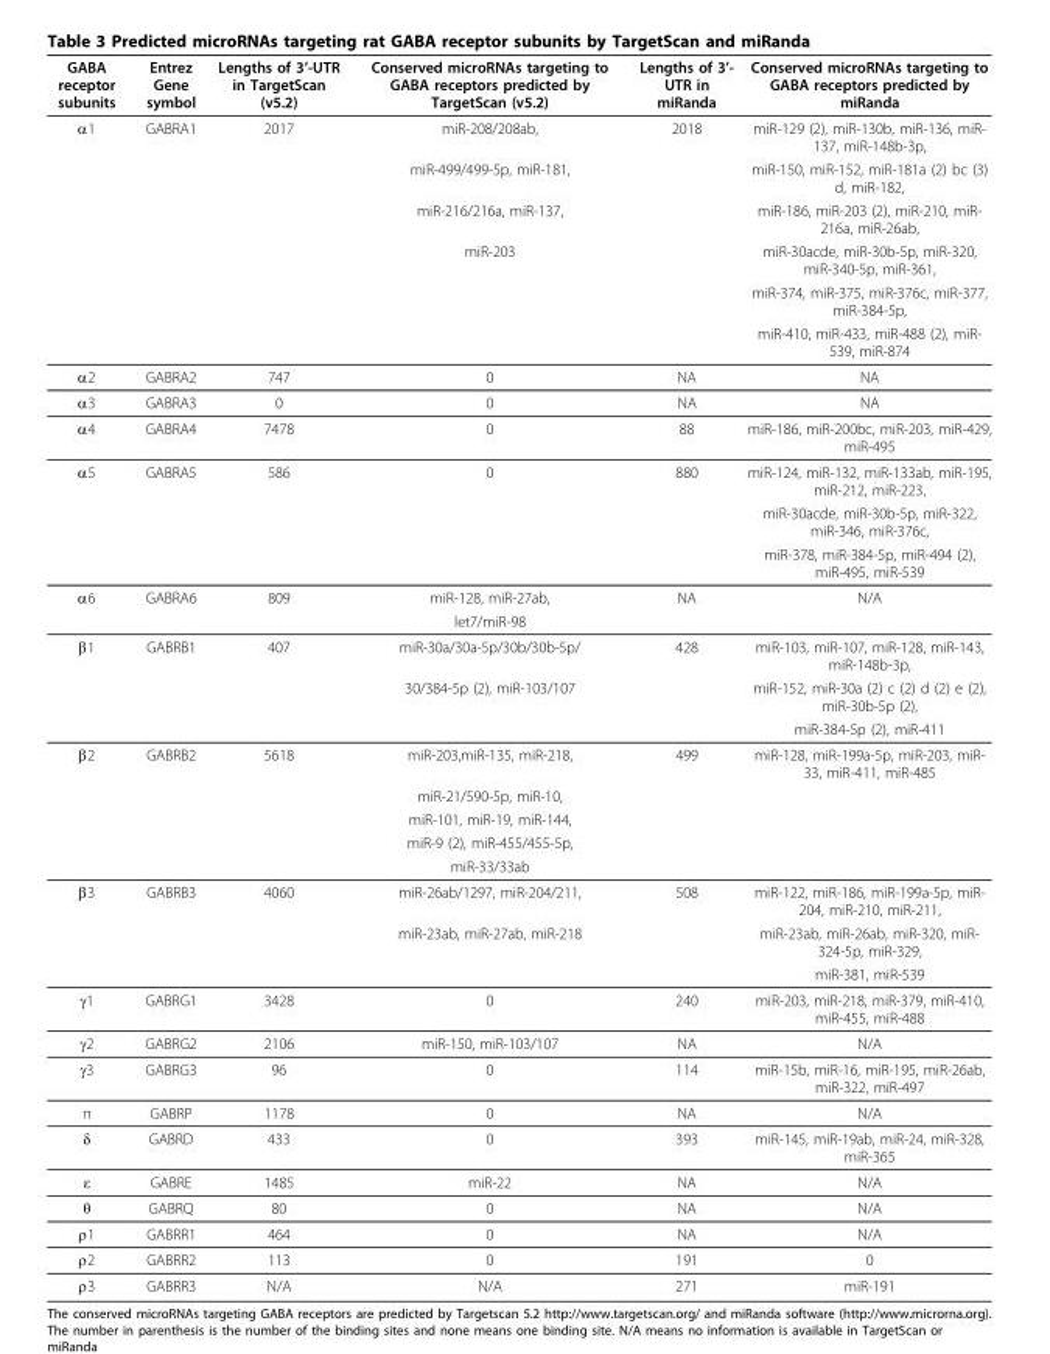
<table><thead><tr><td>GABA receptor subunits</td><td>Entrez Gene symbol</td><td>Lengths of 3’-UTR in TargetScan (v5.2)</td><td>Conserved microRNAs targeting to GABA receptors predicted by TargetScan (v5.2)</td><td>Lengths of 3’- UTR in miRanda</td><td>Conserved microRNAs targeting to GABA receptors predicted by miRanda</td></tr></thead><tbody><tr><td rowspan="6">α1</td><td>GABRA1</td><td>2017</td><td>miR-208/208ab,</td><td>2018</td><td>miR-129 (2), miR-130b, miR-136, miR- 137, miR-148b-3p,</td></tr><tr><td></td><td></td><td>miR-499/499-5p, miR-181,</td><td></td><td>miR-150, miR-152, miR-181a (2) bc (3) d, miR-182,</td></tr><tr><td></td><td></td><td>miR-216/216a, miR-137,</td><td></td><td>miR-186, miR-203 (2), miR-210, miR- 216a, miR-26ab,</td></tr><tr><td></td><td></td><td>miR-203</td><td></td><td>miR-30acde, miR-30b-5p, miR-320, miR-340-5p, miR-361,</td></tr><tr><td></td><td></td><td></td><td></td><td>miR-374, miR-375, miR-376c, miR-377, miR-384-5p,</td></tr><tr><td></td><td></td><td></td><td></td><td>miR-410, miR-433, miR-488 (2), miR- 539, miR-874</td></tr><tr><td>α2</td><td>GABRA2</td><td>747</td><td>0</td><td>NA</td><td>NA</td></tr><tr><td>α3</td><td>GABRA3</td><td>0</td><td>0</td><td>NA</td><td>NA</td></tr><tr><td>α4</td><td>GABRA4</td><td>7478</td><td>0</td><td>88</td><td>miR-186, miR-200bc, miR-203, miR-429, miR-495</td></tr><tr><td rowspan="3">α5</td><td>GABRA5</td><td>586</td><td>0</td><td>880</td><td>miR-124, miR-132, miR-133ab, miR-195, miR-212, miR-223,</td></tr><tr><td></td><td></td><td></td><td></td><td>miR-30acde, miR-30b-5p, miR-322, miR-346, miR-376c,</td></tr><tr><td></td><td></td><td></td><td></td><td>miR-378, miR-384-5p, miR-494 (2), miR-495, miR-539</td></tr><tr><td rowspan="2">α6</td><td>GABRA6</td><td>809</td><td>miR-128, miR-27ab,</td><td>NA</td><td>N/A</td></tr><tr><td></td><td></td><td>let7/miR-98</td><td></td><td></td></tr><tr><td rowspan="3">β1</td><td>GABRB1</td><td>407</td><td>miR-30a/30a-5p/30b/30b-5p/</td><td>428</td><td>miR-103, miR-107, miR-128, miR-143, miR-148b-3p,</td></tr><tr><td></td><td></td><td>30/384-5p (2), miR-103/107</td><td></td><td>miR-152, miR-30a (2) c (2) d (2) e (2), miR-30b-5p (2),</td></tr><tr><td></td><td></td><td></td><td></td><td>miR-384-5p (2), miR-411</td></tr><tr><td rowspan="5">β2</td><td>GABRB2</td><td>5618</td><td>miR-203,miR-135, miR-218,</td><td>499</td><td>miR-128, miR-199a-5p, miR-203, miR- 33, miR-411, miR-485</td></tr><tr><td></td><td></td><td>miR-21/590-5p, miR-10,</td><td></td><td></td></tr><tr><td></td><td></td><td>miR-101, miR-19, miR-144,</td><td></td><td></td></tr><tr><td></td><td></td><td>miR-9 (2), miR-455/455-5p,</td><td></td><td></td></tr><tr><td></td><td></td><td>miR-33/33ab</td><td></td><td></td></tr><tr><td rowspan="3">β3</td><td>GABRB3</td><td>4060</td><td>miR-26ab/1297, miR-204/211,</td><td>508</td><td>miR-122, miR-186, miR-199a-5p, miR- 204, miR-210, miR-211,</td></tr><tr><td></td><td></td><td>miR-23ab, miR-27ab, miR-218</td><td></td><td>miR-23ab, miR-26ab, miR-320, miR- 324-5p, miR-329,</td></tr><tr><td></td><td></td><td></td><td></td><td>miR-381, miR-539</td></tr><tr><td>γ1</td><td>GABRG1</td><td>3428</td><td>0</td><td>240</td><td>miR-203, miR-218, miR-379, miR-410, miR-455, miR-488</td></tr><tr><td>γ2</td><td>GABRG2</td><td>2106</td><td>miR-150, miR-103/107</td><td>NA</td><td>N/A</td></tr><tr><td>γ3</td><td>GABRG3</td><td>96</td><td>0</td><td>114</td><td>miR-15b, miR-16, miR-195, miR-26ab, miR-322, miR-497</td></tr><tr><td>π</td><td>GABRP</td><td>1178</td><td>0</td><td>NA</td><td>N/A</td></tr><tr><td>δ</td><td>GABRD</td><td>433</td><td>0</td><td>393</td><td>miR-145, miR-19ab, miR-24, miR-328, miR-365</td></tr><tr><td>ε</td><td>GABRE</td><td>1485</td><td>miR-22</td><td>NA</td><td>N/A</td></tr><tr><td>θ</td><td>GABRQ</td><td>80</td><td>0</td><td>NA</td><td>N/A</td></tr><tr><td>ρ1</td><td>GABRR1</td><td>464</td><td>0</td><td>NA</td><td>N/A</td></tr><tr><td>ρ2</td><td>GABRR2</td><td>113</td><td>0</td><td>191</td><td>0</td></tr><tr><td>ρ3</td><td>GABRR3</td><td>N/A</td><td>N/A</td><td>271</td><td>miR-191</td></tr></tbody></table>